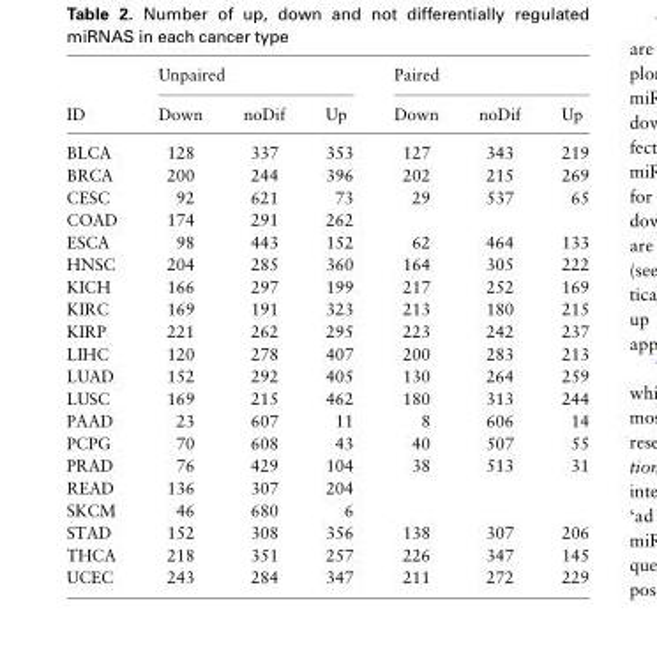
<table><thead><tr><td rowspan="2">ID</td><td colspan="3">Unpaired</td><td colspan="3">Paired</td></tr><tr><td>Down</td><td>noDif</td><td>Up</td><td>Down</td><td>noDif</td><td>Up</td></tr></thead><tbody><tr><td>BLCA</td><td>128</td><td>337</td><td>353</td><td>127</td><td>343</td><td>219</td></tr><tr><td>BRCA</td><td>200</td><td>244</td><td>396</td><td>202</td><td>215</td><td>269</td></tr><tr><td>CESC</td><td>92</td><td>621</td><td>73</td><td>29</td><td>537</td><td>65</td></tr><tr><td>COAD</td><td>174</td><td>291</td><td>262</td><td></td><td></td><td></td></tr><tr><td>ESCA</td><td>98</td><td>443</td><td>152</td><td>62</td><td>464</td><td>133</td></tr><tr><td>HNSC</td><td>204</td><td>285</td><td>360</td><td>164</td><td>305</td><td>222</td></tr><tr><td>KICH</td><td>166</td><td>297</td><td>199</td><td>217</td><td>252</td><td>169</td></tr><tr><td>KIRC</td><td>169</td><td>191</td><td>323</td><td>213</td><td>180</td><td>215</td></tr><tr><td>KIRP</td><td>221</td><td>262</td><td>295</td><td>223</td><td>242</td><td>237</td></tr><tr><td>LIHC</td><td>120</td><td>278</td><td>407</td><td>200</td><td>283</td><td>213</td></tr><tr><td>LUAD</td><td>152</td><td>292</td><td>405</td><td>130</td><td>264</td><td>259</td></tr><tr><td>LUSC</td><td>169</td><td>215</td><td>462</td><td>180</td><td>313</td><td>244</td></tr><tr><td>PAAD</td><td>23</td><td>607</td><td>11</td><td>8</td><td>606</td><td>14</td></tr><tr><td>PCPG</td><td>70</td><td>608</td><td>43</td><td>40</td><td>507</td><td>55</td></tr><tr><td>PRAD</td><td>76</td><td>429</td><td>104</td><td>38</td><td>513</td><td>31</td></tr><tr><td>READ</td><td>136</td><td>307</td><td>204</td><td></td><td></td><td></td></tr><tr><td>SKCM</td><td>46</td><td>680</td><td>6</td><td></td><td></td><td></td></tr><tr><td>STAD</td><td>152</td><td>308</td><td>356</td><td>138</td><td>307</td><td>206</td></tr><tr><td>THCA</td><td>218</td><td>351</td><td>257</td><td>226</td><td>347</td><td>145</td></tr><tr><td>UCEC</td><td>243</td><td>284</td><td>347</td><td>211</td><td>272</td><td>229</td></tr></tbody></table>